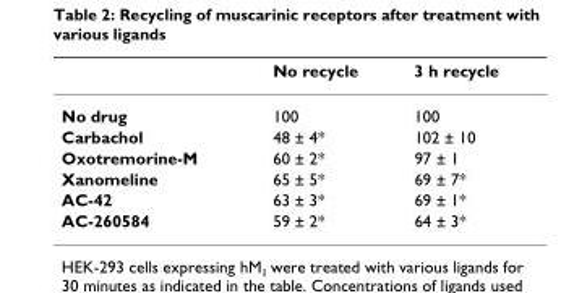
<table><thead><tr><td></td><td>No recycle</td><td>3 h recycle</td></tr></thead><tbody><tr><td>No drug</td><td>100</td><td>100</td></tr><tr><td>Carbachol</td><td>48 ± 4*</td><td>102 ± 10</td></tr><tr><td>Oxotremorine-M</td><td>60 ± 2*</td><td>97 ± 1</td></tr><tr><td>Xanomeline</td><td>65 ± 5*</td><td>69 ± 7*</td></tr><tr><td>AC-42</td><td>63 ± 3*</td><td>69 ± 1*</td></tr><tr><td>AC-260584</td><td>59 ± 2*</td><td>64 ± 3*</td></tr></tbody></table>